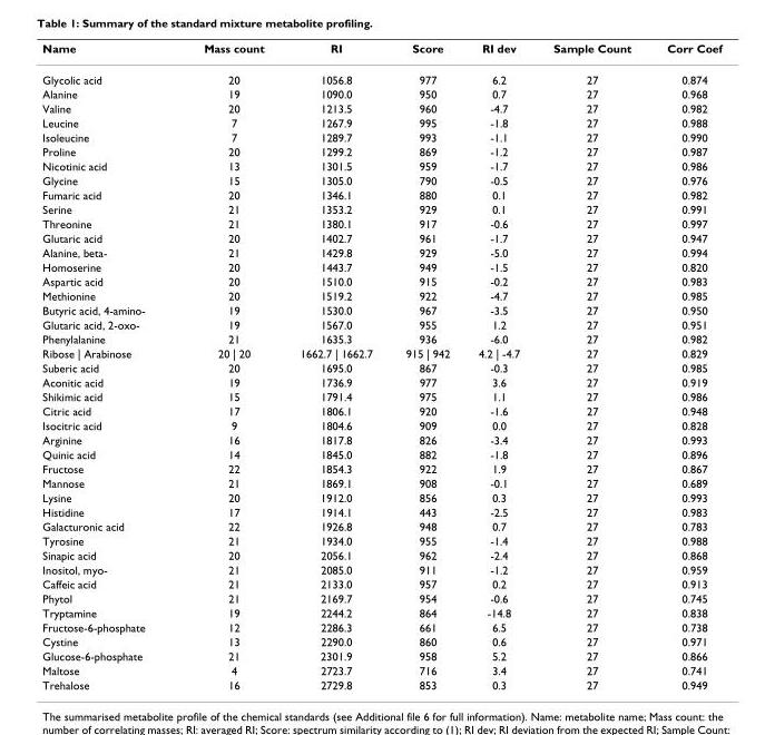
<table><thead><tr><td>Name</td><td>Mass count</td><td>RI</td><td>Score</td><td>RI dev</td><td>Sample Count</td><td>Corr Coef</td></tr></thead><tbody><tr><td>Glycolic acid</td><td>20</td><td>1056.8</td><td>977</td><td>6.2</td><td>27</td><td>0.874</td></tr><tr><td>Alanine</td><td>19</td><td>1090.0</td><td>950</td><td>0.7</td><td>27</td><td>0.968</td></tr><tr><td>Valine</td><td>20</td><td>1213.5</td><td>960</td><td>-4.7</td><td>27</td><td>0.982</td></tr><tr><td>Leucine</td><td>7</td><td>1267.9</td><td>995</td><td>-1.8</td><td>27</td><td>0.988</td></tr><tr><td>Isoleucine</td><td>7</td><td>1289.7</td><td>993</td><td>-1.1</td><td>27</td><td>0.990</td></tr><tr><td>Proline</td><td>20</td><td>1299.2</td><td>869</td><td>-1.2</td><td>27</td><td>0.987</td></tr><tr><td>Nicotinic acid</td><td>13</td><td>1301.5</td><td>959</td><td>-1.7</td><td>27</td><td>0.986</td></tr><tr><td>Glycine</td><td>15</td><td>1305.0</td><td>790</td><td>-0.5</td><td>27</td><td>0.976</td></tr><tr><td>Fumaric acid</td><td>20</td><td>1346.1</td><td>880</td><td>0.1</td><td>27</td><td>0.982</td></tr><tr><td>Serine</td><td>21</td><td>1353.2</td><td>929</td><td>0.1</td><td>27</td><td>0.991</td></tr><tr><td>Threonine</td><td>21</td><td>1380.1</td><td>917</td><td>-0.6</td><td>27</td><td>0.997</td></tr><tr><td>Glutaric acid</td><td>20</td><td>1402.7</td><td>961</td><td>-1.7</td><td>27</td><td>0.947</td></tr><tr><td>Alanine, beta-</td><td>21</td><td>1429.8</td><td>929</td><td>-5.0</td><td>27</td><td>0.994</td></tr><tr><td>Homoserine</td><td>20</td><td>1443.7</td><td>949</td><td>-1.5</td><td>27</td><td>0.820</td></tr><tr><td>Aspartic acid</td><td>20</td><td>1510.0</td><td>915</td><td>-0.2</td><td>27</td><td>0.983</td></tr><tr><td>Methionine</td><td>20</td><td>1519.2</td><td>922</td><td>-4.7</td><td>27</td><td>0.985</td></tr><tr><td>Butyric acid, 4-amino-</td><td>19</td><td>1530.0</td><td>967</td><td>-3.5</td><td>27</td><td>0.950</td></tr><tr><td>Glutaric acid, 2-oxo-</td><td>19</td><td>1567.0</td><td>955</td><td>1.2</td><td>27</td><td>0.951</td></tr><tr><td>Phenylalanine</td><td>21</td><td>1635.3</td><td>936</td><td>-6.0</td><td>27</td><td>0.982</td></tr><tr><td>Ribose | Arabinose</td><td>20 | 20</td><td>1662.7 | 1662.7</td><td>915 | 942</td><td>4.2 | -4.7</td><td>27</td><td>0.829</td></tr><tr><td>Suberic acid</td><td>20</td><td>1695.0</td><td>867</td><td>-0.3</td><td>27</td><td>0.985</td></tr><tr><td>Aconitic acid</td><td>19</td><td>1736.9</td><td>977</td><td>3.6</td><td>27</td><td>0.919</td></tr><tr><td>Shikimic acid</td><td>15</td><td>1791.4</td><td>975</td><td>1.1</td><td>27</td><td>0.986</td></tr><tr><td>Citric acid</td><td>17</td><td>1806.1</td><td>920</td><td>-1.6</td><td>27</td><td>0.948</td></tr><tr><td>Isocitric acid</td><td>9</td><td>1804.6</td><td>909</td><td>0.0</td><td>27</td><td>0.828</td></tr><tr><td>Arginine</td><td>16</td><td>1817.8</td><td>826</td><td>-3.4</td><td>27</td><td>0.993</td></tr><tr><td>Quinic acid</td><td>14</td><td>1845.0</td><td>882</td><td>-1.8</td><td>27</td><td>0.896</td></tr><tr><td>Fructose</td><td>22</td><td>1854.3</td><td>922</td><td>1.9</td><td>27</td><td>0.867</td></tr><tr><td>Mannose</td><td>21</td><td>1869.1</td><td>908</td><td>-0.1</td><td>27</td><td>0.689</td></tr><tr><td>Lysine</td><td>20</td><td>1912.0</td><td>856</td><td>0.3</td><td>27</td><td>0.993</td></tr><tr><td>Histidine</td><td>17</td><td>1914.1</td><td>443</td><td>-2.5</td><td>27</td><td>0.983</td></tr><tr><td>Galacturonic acid</td><td>22</td><td>1926.8</td><td>948</td><td>0.7</td><td>27</td><td>0.783</td></tr><tr><td>Tyrosine</td><td>21</td><td>1934.0</td><td>955</td><td>-1.4</td><td>27</td><td>0.988</td></tr><tr><td>Sinapic acid</td><td>20</td><td>2056.1</td><td>962</td><td>-2.4</td><td>27</td><td>0.868</td></tr><tr><td>Inositol, myo-</td><td>21</td><td>2085.0</td><td>911</td><td>-1.2</td><td>27</td><td>0.959</td></tr><tr><td>Caffeic acid</td><td>21</td><td>2133.0</td><td>957</td><td>0.2</td><td>27</td><td>0.913</td></tr><tr><td>Phytol</td><td>21</td><td>2169.7</td><td>954</td><td>-0.6</td><td>27</td><td>0.745</td></tr><tr><td>Tryptamine</td><td>19</td><td>2244.2</td><td>864</td><td>-14.8</td><td>27</td><td>0.838</td></tr><tr><td>Fructose-6-phosphate</td><td>12</td><td>2286.3</td><td>661</td><td>6.5</td><td>27</td><td>0.738</td></tr><tr><td>Cystine</td><td>13</td><td>2290.0</td><td>860</td><td>0.6</td><td>27</td><td>0.971</td></tr><tr><td>Glucose-6-phosphate</td><td>21</td><td>2301.9</td><td>958</td><td>5.2</td><td>27</td><td>0.866</td></tr><tr><td>Maltose</td><td>4</td><td>2723.7</td><td>716</td><td>3.4</td><td>27</td><td>0.741</td></tr><tr><td>Trehalose</td><td>16</td><td>2729.8</td><td>853</td><td>0.3</td><td>27</td><td>0.949</td></tr></tbody></table>